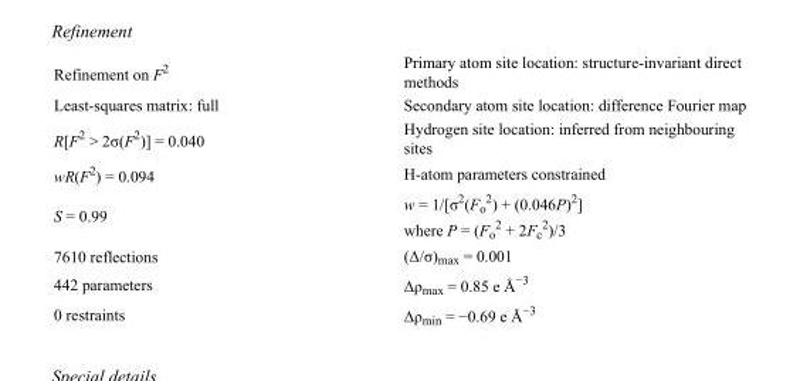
<table><tbody><tr><td>Refinement on F<sup>2</sup></td><td>Primary atom site location: structure-invariant direct methods</td></tr><tr><td>Least-squares matrix: full</td><td>Secondary atom site location: difference Fourier map</td></tr><tr><td>R[F<sup>2</sup> &gt; 2σ(F<sup>2</sup>)] = 0.040</td><td>Hydrogen site location: inferred from neighbouring sites</td></tr><tr><td>wR(F<sup>2</sup>) = 0.094</td><td>H-atom parameters constrained</td></tr><tr><td>S = 0.99</td><td>w = 1/[σ<sup>2</sup>(F<sub>o</sub> <sup>2</sup>) + (0.046P)<sup>2</sup>] where P = (F<sub>o</sub> <sup>2</sup> + 2F<sub>c</sub> <sup>2</sup>)/3</td></tr><tr><td>7610 reflections</td><td>(Δ/σ)<sub>max</sub> = 0.001</td></tr><tr><td>442 parameters</td><td>Δρ<sub>max</sub> = 0.85 e Å<sup>−3</sup></td></tr><tr><td>0 restraints</td><td>Δρ<sub>min</sub> = −0.69 e Å<sup>−3</sup></td></tr></tbody></table>